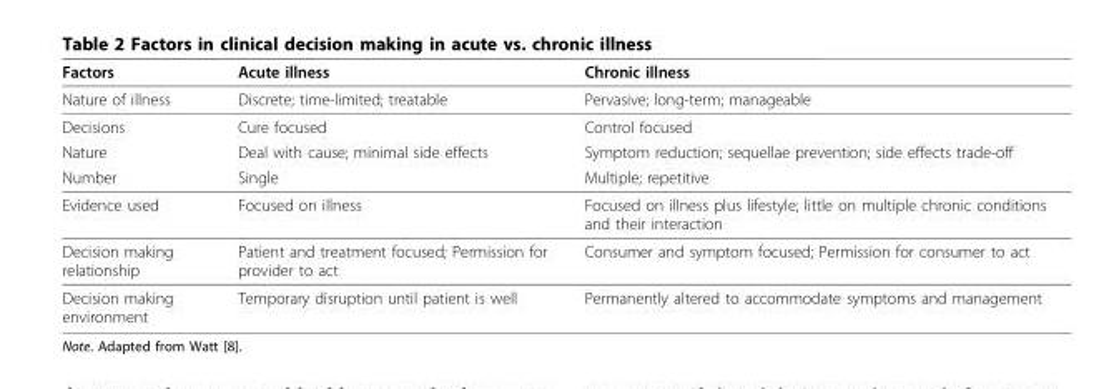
<table><thead><tr><td>Factors</td><td>Acute illness</td><td>Chronic illness</td></tr></thead><tbody><tr><td>Nature of illness</td><td>Discrete; time-limited; treatable</td><td>Pervasive; long-term; manageable</td></tr><tr><td>Decisions</td><td>Cure focused</td><td>Control focused</td></tr><tr><td>Nature</td><td>Deal with cause; minimal side effects</td><td>Symptom reduction; sequellae prevention; side effects trade-off</td></tr><tr><td>Number</td><td>Single</td><td>Multiple; repetitive</td></tr><tr><td>Evidence used</td><td>Focused on illness</td><td>Focused on illness plus lifestyle; little on multiple chronic conditions and their interaction</td></tr><tr><td>Decision making relationship</td><td>Patient and treatment focused; Permission for provider to act</td><td>Consumer and symptom focused; Permission for consumer to act</td></tr><tr><td>Decision making environment</td><td>Temporary disruption until patient is well</td><td>Permanently altered to accommodate symptoms and management</td></tr></tbody></table>